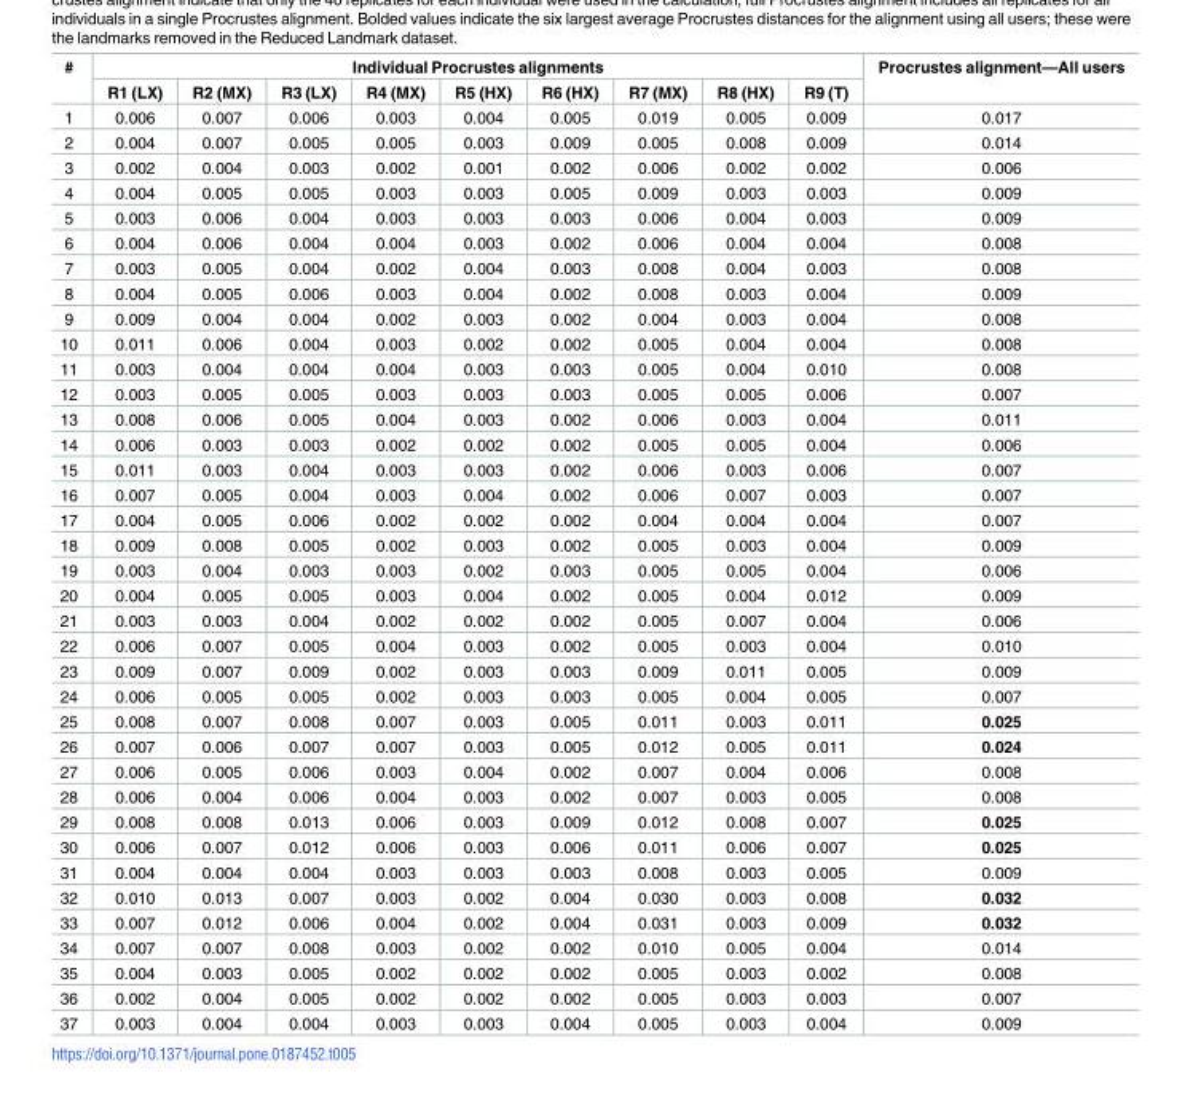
<table><thead><tr><td rowspan="2">#</td><td colspan="9">Individual Procrustes alignments</td><td rowspan="2">Procrustes alignment—All users</td></tr><tr><td>R1 (LX)</td><td>R2 (MX)</td><td>R3 (LX)</td><td>R4 (MX)</td><td>R5 (HX)</td><td>R6 (HX)</td><td>R7 (MX)</td><td>R8 (HX)</td><td>R9 (T)</td></tr></thead><tbody><tr><td>1</td><td>0.006</td><td>0.007</td><td>0.006</td><td>0.003</td><td>0.004</td><td>0.005</td><td>0.019</td><td>0.005</td><td>0.009</td><td>0.017</td></tr><tr><td>2</td><td>0.004</td><td>0.007</td><td>0.005</td><td>0.005</td><td>0.003</td><td>0.009</td><td>0.005</td><td>0.008</td><td>0.009</td><td>0.014</td></tr><tr><td>3</td><td>0.002</td><td>0.004</td><td>0.003</td><td>0.002</td><td>0.001</td><td>0.002</td><td>0.006</td><td>0.002</td><td>0.002</td><td>0.006</td></tr><tr><td>4</td><td>0.004</td><td>0.005</td><td>0.005</td><td>0.003</td><td>0.003</td><td>0.005</td><td>0.009</td><td>0.003</td><td>0.003</td><td>0.009</td></tr><tr><td>5</td><td>0.003</td><td>0.006</td><td>0.004</td><td>0.003</td><td>0.003</td><td>0.003</td><td>0.006</td><td>0.004</td><td>0.003</td><td>0.009</td></tr><tr><td>6</td><td>0.004</td><td>0.006</td><td>0.004</td><td>0.004</td><td>0.003</td><td>0.002</td><td>0.006</td><td>0.004</td><td>0.004</td><td>0.008</td></tr><tr><td>7</td><td>0.003</td><td>0.005</td><td>0.004</td><td>0.002</td><td>0.004</td><td>0.003</td><td>0.008</td><td>0.004</td><td>0.003</td><td>0.008</td></tr><tr><td>8</td><td>0.004</td><td>0.005</td><td>0.006</td><td>0.003</td><td>0.004</td><td>0.002</td><td>0.008</td><td>0.003</td><td>0.004</td><td>0.009</td></tr><tr><td>9</td><td>0.009</td><td>0.004</td><td>0.004</td><td>0.002</td><td>0.003</td><td>0.002</td><td>0.004</td><td>0.003</td><td>0.004</td><td>0.008</td></tr><tr><td>10</td><td>0.011</td><td>0.006</td><td>0.004</td><td>0.003</td><td>0.002</td><td>0.002</td><td>0.005</td><td>0.004</td><td>0.004</td><td>0.008</td></tr><tr><td>11</td><td>0.003</td><td>0.004</td><td>0.004</td><td>0.004</td><td>0.003</td><td>0.003</td><td>0.005</td><td>0.004</td><td>0.010</td><td>0.008</td></tr><tr><td>12</td><td>0.003</td><td>0.005</td><td>0.005</td><td>0.003</td><td>0.003</td><td>0.003</td><td>0.005</td><td>0.005</td><td>0.006</td><td>0.007</td></tr><tr><td>13</td><td>0.008</td><td>0.006</td><td>0.005</td><td>0.004</td><td>0.003</td><td>0.002</td><td>0.006</td><td>0.003</td><td>0.004</td><td>0.011</td></tr><tr><td>14</td><td>0.006</td><td>0.003</td><td>0.003</td><td>0.002</td><td>0.002</td><td>0.002</td><td>0.005</td><td>0.005</td><td>0.004</td><td>0.006</td></tr><tr><td>15</td><td>0.011</td><td>0.003</td><td>0.004</td><td>0.003</td><td>0.003</td><td>0.002</td><td>0.006</td><td>0.003</td><td>0.006</td><td>0.007</td></tr><tr><td>16</td><td>0.007</td><td>0.005</td><td>0.004</td><td>0.003</td><td>0.004</td><td>0.002</td><td>0.006</td><td>0.007</td><td>0.003</td><td>0.007</td></tr><tr><td>17</td><td>0.004</td><td>0.005</td><td>0.006</td><td>0.002</td><td>0.002</td><td>0.002</td><td>0.004</td><td>0.004</td><td>0.004</td><td>0.007</td></tr><tr><td>18</td><td>0.009</td><td>0.008</td><td>0.005</td><td>0.002</td><td>0.003</td><td>0.002</td><td>0.005</td><td>0.003</td><td>0.004</td><td>0.009</td></tr><tr><td>19</td><td>0.003</td><td>0.004</td><td>0.003</td><td>0.003</td><td>0.002</td><td>0.003</td><td>0.005</td><td>0.005</td><td>0.004</td><td>0.006</td></tr><tr><td>20</td><td>0.004</td><td>0.005</td><td>0.005</td><td>0.003</td><td>0.004</td><td>0.002</td><td>0.005</td><td>0.004</td><td>0.012</td><td>0.009</td></tr><tr><td>21</td><td>0.003</td><td>0.003</td><td>0.004</td><td>0.002</td><td>0.002</td><td>0.002</td><td>0.005</td><td>0.007</td><td>0.004</td><td>0.006</td></tr><tr><td>22</td><td>0.006</td><td>0.007</td><td>0.005</td><td>0.004</td><td>0.003</td><td>0.002</td><td>0.005</td><td>0.003</td><td>0.004</td><td>0.010</td></tr><tr><td>23</td><td>0.009</td><td>0.007</td><td>0.009</td><td>0.002</td><td>0.003</td><td>0.003</td><td>0.009</td><td>0.011</td><td>0.005</td><td>0.009</td></tr><tr><td>24</td><td>0.006</td><td>0.005</td><td>0.005</td><td>0.002</td><td>0.003</td><td>0.003</td><td>0.005</td><td>0.004</td><td>0.005</td><td>0.007</td></tr><tr><td>25</td><td>0.008</td><td>0.007</td><td>0.008</td><td>0.007</td><td>0.003</td><td>0.005</td><td>0.011</td><td>0.003</td><td>0.011</td><td>0.025</td></tr><tr><td>26</td><td>0.007</td><td>0.006</td><td>0.007</td><td>0.007</td><td>0.003</td><td>0.005</td><td>0.012</td><td>0.005</td><td>0.011</td><td>0.024</td></tr><tr><td>27</td><td>0.006</td><td>0.005</td><td>0.006</td><td>0.003</td><td>0.004</td><td>0.002</td><td>0.007</td><td>0.004</td><td>0.006</td><td>0.008</td></tr><tr><td>28</td><td>0.006</td><td>0.004</td><td>0.006</td><td>0.004</td><td>0.003</td><td>0.002</td><td>0.007</td><td>0.003</td><td>0.005</td><td>0.008</td></tr><tr><td>29</td><td>0.008</td><td>0.008</td><td>0.013</td><td>0.006</td><td>0.003</td><td>0.009</td><td>0.012</td><td>0.008</td><td>0.007</td><td>0.025</td></tr><tr><td>30</td><td>0.006</td><td>0.007</td><td>0.012</td><td>0.006</td><td>0.003</td><td>0.006</td><td>0.011</td><td>0.006</td><td>0.007</td><td>0.025</td></tr><tr><td>31</td><td>0.004</td><td>0.004</td><td>0.004</td><td>0.003</td><td>0.003</td><td>0.003</td><td>0.008</td><td>0.003</td><td>0.005</td><td>0.009</td></tr><tr><td>32</td><td>0.010</td><td>0.013</td><td>0.007</td><td>0.003</td><td>0.002</td><td>0.004</td><td>0.030</td><td>0.003</td><td>0.008</td><td>0.032</td></tr><tr><td>33</td><td>0.007</td><td>0.012</td><td>0.006</td><td>0.004</td><td>0.002</td><td>0.004</td><td>0.031</td><td>0.003</td><td>0.009</td><td>0.032</td></tr><tr><td>34</td><td>0.007</td><td>0.007</td><td>0.008</td><td>0.003</td><td>0.002</td><td>0.002</td><td>0.010</td><td>0.005</td><td>0.004</td><td>0.014</td></tr><tr><td>35</td><td>0.004</td><td>0.003</td><td>0.005</td><td>0.002</td><td>0.002</td><td>0.002</td><td>0.005</td><td>0.003</td><td>0.002</td><td>0.008</td></tr><tr><td>36</td><td>0.002</td><td>0.004</td><td>0.005</td><td>0.002</td><td>0.002</td><td>0.002</td><td>0.005</td><td>0.003</td><td>0.003</td><td>0.007</td></tr><tr><td>37</td><td>0.003</td><td>0.004</td><td>0.004</td><td>0.003</td><td>0.003</td><td>0.004</td><td>0.005</td><td>0.003</td><td>0.004</td><td>0.009</td></tr></tbody></table>